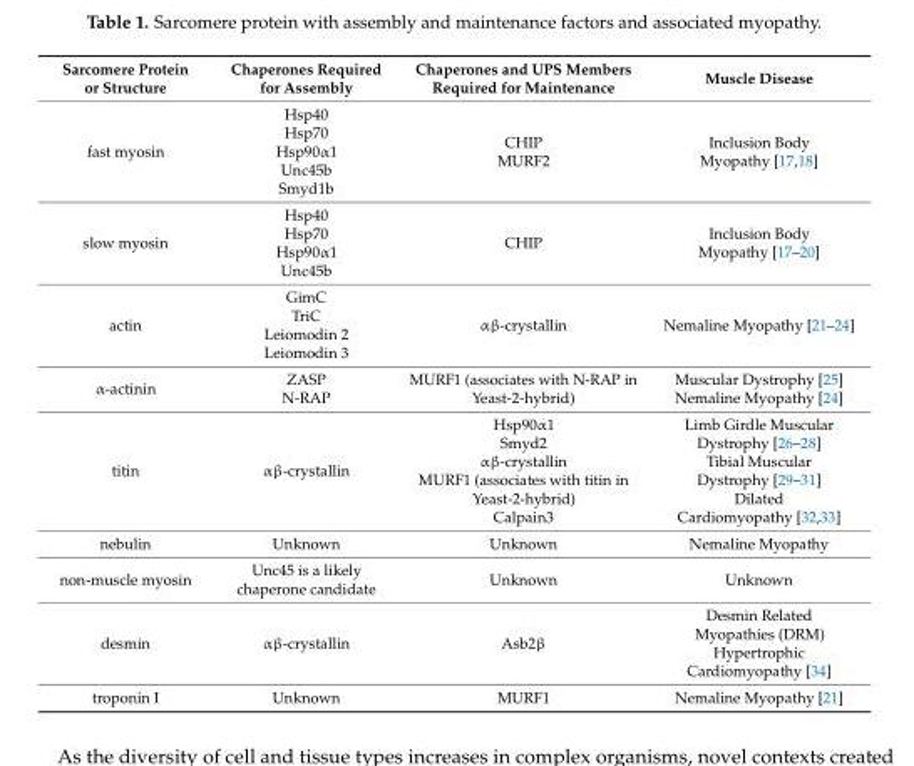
<table><thead><tr><td>Sarcomere Protein or Structure</td><td>Chaperones Required for Assembly</td><td>Chaperones and UPS Members Required for Maintenance</td><td>Muscle Disease</td></tr></thead><tbody><tr><td>fast myosin</td><td>Hsp40 Hsp70 Hsp90α1 Unc45b Smyd1b</td><td>CHIP MURF2</td><td>Inclusion Body Myopathy [17,18]</td></tr><tr><td>slow myosin</td><td>Hsp40 Hsp70 Hsp90α1 Unc45b</td><td>CHIP</td><td>Inclusion Body Myopathy [17–20]</td></tr><tr><td>actin</td><td>GimC TriC Leiomodin 2 Leiomodin 3</td><td>αβ-crystallin</td><td>Nemaline Myopathy [21–24]</td></tr><tr><td>α-actinin</td><td>ZASP N-RAP</td><td>MURF1 (associates with N-RAP in Yeast-2-hybrid)</td><td>Muscular Dystrophy [25] Nemaline Myopathy [24]</td></tr><tr><td>titin</td><td>αβ-crystallin</td><td>Hsp90α1 Smyd2 αβ-crystallin MURF1 (associates with titin in Yeast-2-hybrid) Calpain3</td><td>Limb Girdle Muscular Dystrophy [26–28] Tibial Muscular Dystrophy [29–31] Dilated Cardiomyopathy [32,33]</td></tr><tr><td>nebulin</td><td>Unknown</td><td>Unknown</td><td>Nemaline Myopathy</td></tr><tr><td>non-muscle myosin</td><td>Unc45 is a likely chaperone candidate</td><td>Unknown</td><td>Unknown</td></tr><tr><td>desmin</td><td>αβ-crystallin</td><td>Asb2β</td><td>Desmin Related Myopathies (DRM) Hypertrophic Cardiomyopathy [34]</td></tr><tr><td>troponin I</td><td>Unknown</td><td>MURF1</td><td>Nemaline Myopathy [21]</td></tr></tbody></table>